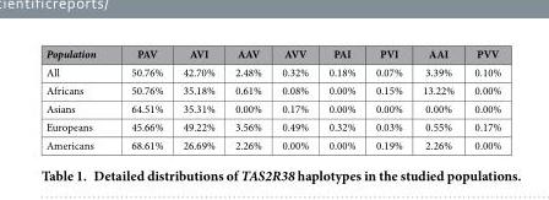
<table><thead><tr><td>Population</td><td>PAV</td><td>AVI</td><td>AAV</td><td>AVV</td><td>PAI</td><td>PVI</td><td>AAI</td><td>PVV</td></tr></thead><tbody><tr><td>All</td><td>50.76%</td><td>42.70%</td><td>2.48%</td><td>0.32%</td><td>0.18%</td><td>0.07%</td><td>3.39%</td><td>0.10%</td></tr><tr><td>Africans</td><td>50.76%</td><td>35.18%</td><td>0.61%</td><td>0.08%</td><td>0.00%</td><td>0.15%</td><td>13.22%</td><td>0.00%</td></tr><tr><td>Asians</td><td>64.51%</td><td>35.31%</td><td>0.00%</td><td>0.17%</td><td>0.00%</td><td>0.00%</td><td>0.00%</td><td>0.00%</td></tr><tr><td>Europeans</td><td>45.66%</td><td>49.22%</td><td>3.56%</td><td>0.49%</td><td>0.32%</td><td>0.03%</td><td>0.55%</td><td>0.17%</td></tr><tr><td>Americans</td><td>68.61%</td><td>26.69%</td><td>2.26%</td><td>0.00%</td><td>0.00%</td><td>0.19%</td><td>2.26%</td><td>0.00%</td></tr></tbody></table>